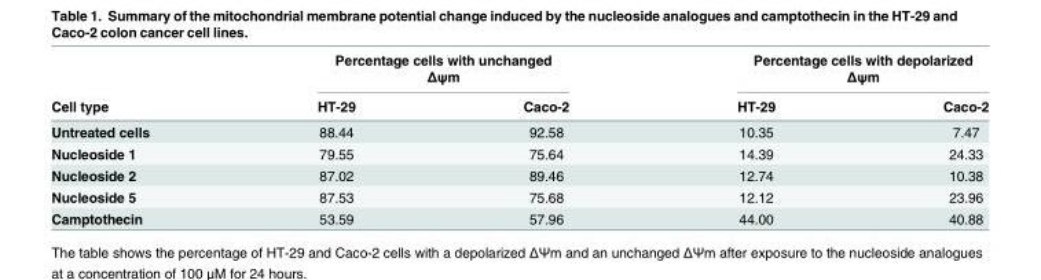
<table><thead><tr><td rowspan="2">Cell type</td><td colspan="2">Percentage cells with unchanged Δψm</td><td colspan="2">Percentage cells with depolarized Δψm</td></tr><tr><td>HT-29</td><td>Caco-2</td><td>HT-29</td><td>Caco-2</td></tr></thead><tbody><tr><td>Untreated cells</td><td>88.44</td><td>92.58</td><td>10.35</td><td>7.47</td></tr><tr><td>Nucleoside 1</td><td>79.55</td><td>75.64</td><td>14.39</td><td>24.33</td></tr><tr><td>Nucleoside 2</td><td>87.02</td><td>89.46</td><td>12.74</td><td>10.38</td></tr><tr><td>Nucleoside 5</td><td>87.53</td><td>75.68</td><td>12.12</td><td>23.96</td></tr><tr><td>Camptothecin</td><td>53.59</td><td>57.96</td><td>44.00</td><td>40.88</td></tr></tbody></table>